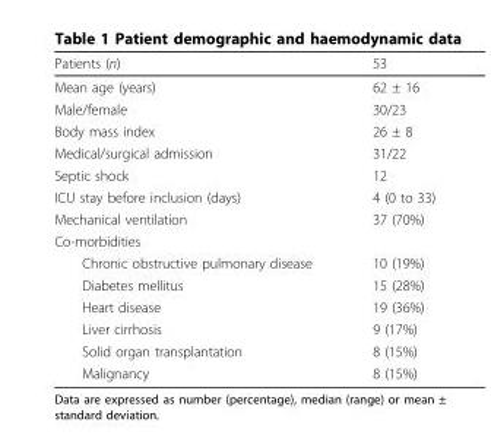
<table><thead><tr><td>Patients (n)</td><td>53</td></tr></thead><tbody><tr><td>Mean age (years)</td><td>62 ± 16</td></tr><tr><td>Male/female</td><td>30/23</td></tr><tr><td>Body mass index</td><td>26 ± 8</td></tr><tr><td>Medical/surgical admission</td><td>31/22</td></tr><tr><td>Septic shock</td><td>12</td></tr><tr><td>ICU stay before inclusion (days)</td><td>4 (0 to 33)</td></tr><tr><td>Mechanical ventilation</td><td>37 (70%)</td></tr><tr><td colspan="2">Co-morbidities</td></tr><tr><td>Chronic obstructive pulmonary disease</td><td>10 (19%)</td></tr><tr><td>Diabetes mellitus</td><td>15 (28%)</td></tr><tr><td>Heart disease</td><td>19 (36%)</td></tr><tr><td>Liver cirrhosis</td><td>9 (17%)</td></tr><tr><td>Solid organ transplantation</td><td>8 (15%)</td></tr><tr><td>Malignancy</td><td>8 (15%)</td></tr></tbody></table>